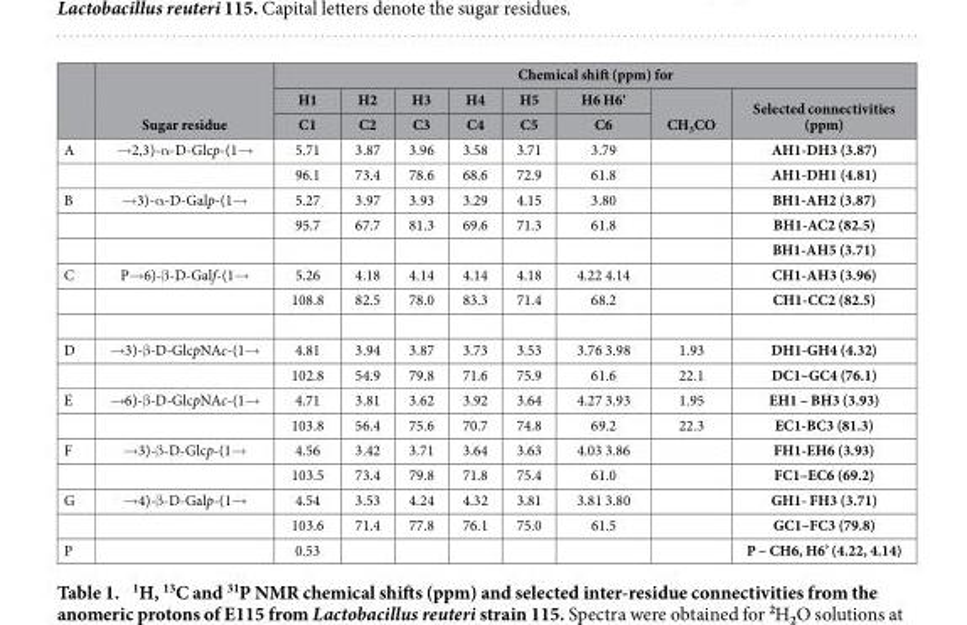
<table><thead><tr><td rowspan="3"></td><td rowspan="3">Sugar residue</td><td colspan="8">Chemical shift (ppm) for</td></tr><tr><td rowspan="2">H1 C1</td><td rowspan="2">H2 C2</td><td rowspan="2">H3 C3</td><td rowspan="2">H4 C4</td><td rowspan="2">H5 C5</td><td rowspan="2">H6 H6‘ C6</td><td rowspan="2">CH<sub>3</sub>CO</td><td rowspan="2">Selected connectivities (ppm)</td></tr><tr></tr></thead><tbody><tr><td rowspan="2">A</td><td>→ 2,3)-α -D-Glcp-(1→</td><td>5.71</td><td>3.87</td><td>3.96</td><td>3.58</td><td>3.71</td><td>3.79</td><td></td><td>AH1-DH3 (3.87)</td></tr><tr><td></td><td>96.1</td><td>73.4</td><td>78.6</td><td>68.6</td><td>72.9</td><td>61.8</td><td></td><td>AH1-DH1 (4.81)</td></tr><tr><td rowspan="3">B</td><td>→ 3)-α -D-Galp-(1→</td><td>5.27</td><td>3.97</td><td>3.93</td><td>3.29</td><td>4.15</td><td>3.80</td><td></td><td>BH1-AH2 (3.87)</td></tr><tr><td></td><td>95.7</td><td>67.7</td><td>81.3</td><td>69.6</td><td>71.3</td><td>61.8</td><td></td><td>BH1-AC2 (82.5)</td></tr><tr><td></td><td></td><td></td><td></td><td></td><td></td><td></td><td></td><td>BH1-AH5 (3.71)</td></tr><tr><td rowspan="2">C</td><td>P→ 6)-β -D-Galf-(1→</td><td>5.26</td><td>4.18</td><td>4.14</td><td>4.14</td><td>4.18</td><td>4.22 4.14</td><td></td><td>CH1-AH3 (3.96)</td></tr><tr><td></td><td>108.8</td><td>82.5</td><td>78.0</td><td>83.3</td><td>71.4</td><td>68.2</td><td></td><td>CH1-CC2 (82.5)</td></tr><tr><td rowspan="2">D</td><td>→ 3)-β -D-GlcpNAc-(1→</td><td>4.81</td><td>3.94</td><td>3.87</td><td>3.73</td><td>3.53</td><td>3.76 3.98</td><td>1.93</td><td>DH1-GH4 (4.32)</td></tr><tr><td></td><td>102.8</td><td>54.9</td><td>79.8</td><td>71.6</td><td>75.9</td><td>61.6</td><td>22.1</td><td>DC1–GC4 (76.1)</td></tr><tr><td rowspan="2">E</td><td>→ 6)-β -D-GlcpNAc-(1→</td><td>4.71</td><td>3.81</td><td>3.62</td><td>3.92</td><td>3.64</td><td>4.27 3.93</td><td>1.95</td><td>EH1 – BH3 (3.93)</td></tr><tr><td></td><td>103.8</td><td>56.4</td><td>75.6</td><td>70.7</td><td>74.8</td><td>69.2</td><td>22.3</td><td>EC1-BC3 (81.3)</td></tr><tr><td rowspan="2">F</td><td>→ 3)-β -D-Glcp-(1→</td><td>4.56</td><td>3.42</td><td>3.71</td><td>3.64</td><td>3.63</td><td>4.03 3.86</td><td></td><td>FH1-EH6 (3.93)</td></tr><tr><td></td><td>103.5</td><td>73.4</td><td>79.8</td><td>71.8</td><td>75.4</td><td>61.0</td><td></td><td>FC1–EC6 (69.2)</td></tr><tr><td rowspan="2">G</td><td>→ 4)-β -D-Galp-(1→</td><td>4.54</td><td>3.53</td><td>4.24</td><td>4.32</td><td>3.81</td><td>3.81 3.80</td><td></td><td>GH1- FH3 (3.71)</td></tr><tr><td></td><td>103.6</td><td>71.4</td><td>77.8</td><td>76.1</td><td>75.0</td><td>61.5</td><td></td><td>GC1–FC3 (79.8)</td></tr><tr><td>P</td><td></td><td>0.53</td><td></td><td></td><td></td><td></td><td></td><td></td><td>P – CH6, H6’ (4.22, 4.14)</td></tr></tbody></table>